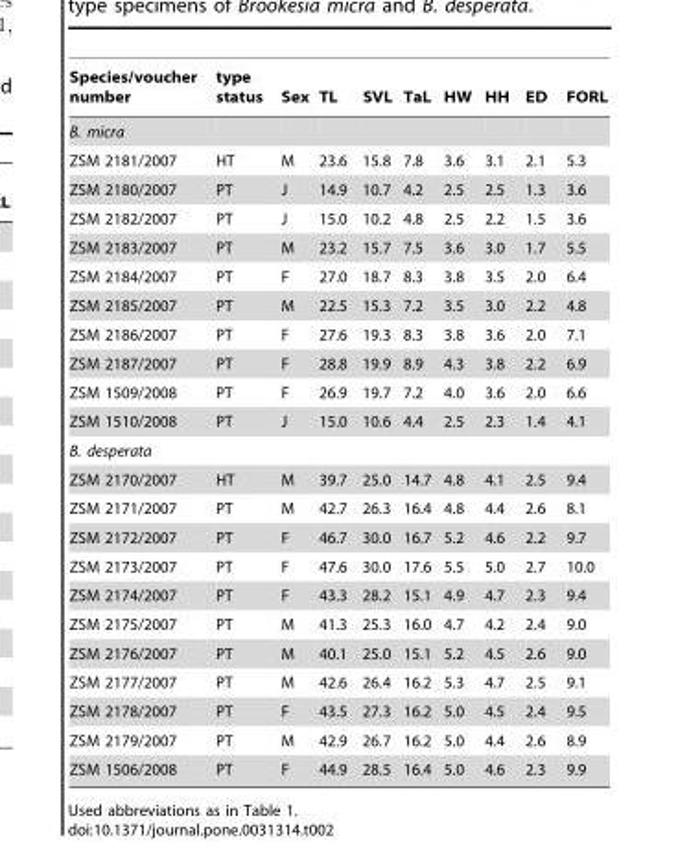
<table><thead><tr><td>Species/voucher number</td><td>type status</td><td>Sex</td><td>TL</td><td>SVL</td><td>TaL</td><td>HW</td><td>HH</td><td>ED</td><td>FORL</td></tr></thead><tbody><tr><td colspan="10">B. micra</td></tr><tr><td>ZSM 2181/2007</td><td>HT</td><td>M</td><td>23.6</td><td>15.8</td><td>7.8</td><td>3.6</td><td>3.1</td><td>2.1</td><td>5.3</td></tr><tr><td>ZSM 2180/2007</td><td>PT</td><td>J</td><td>14.9</td><td>10.7</td><td>4.2</td><td>2.5</td><td>2.5</td><td>1.3</td><td>3.6</td></tr><tr><td>ZSM 2182/2007</td><td>PT</td><td>J</td><td>15.0</td><td>10.2</td><td>4.8</td><td>2.5</td><td>2.2</td><td>1.5</td><td>3.6</td></tr><tr><td>ZSM 2183/2007</td><td>PT</td><td>M</td><td>23.2</td><td>15.7</td><td>7.5</td><td>3.6</td><td>3.0</td><td>1.7</td><td>5.5</td></tr><tr><td>ZSM 2184/2007</td><td>PT</td><td>F</td><td>27.0</td><td>18.7</td><td>8.3</td><td>3.8</td><td>3.5</td><td>2.0</td><td>6.4</td></tr><tr><td>ZSM 2185/2007</td><td>PT</td><td>M</td><td>22.5</td><td>15.3</td><td>7.2</td><td>3.5</td><td>3.0</td><td>2.2</td><td>4.8</td></tr><tr><td>ZSM 2186/2007</td><td>PT</td><td>F</td><td>27.6</td><td>19.3</td><td>8.3</td><td>3.8</td><td>3.6</td><td>2.0</td><td>7.1</td></tr><tr><td>ZSM 2187/2007</td><td>PT</td><td>F</td><td>28.8</td><td>19.9</td><td>8.9</td><td>4.3</td><td>3.8</td><td>2.2</td><td>6.9</td></tr><tr><td>ZSM 1509/2008</td><td>PT</td><td>F</td><td>26.9</td><td>19.7</td><td>7.2</td><td>4.0</td><td>3.6</td><td>2.0</td><td>6.6</td></tr><tr><td>ZSM 1510/2008</td><td>PT</td><td>J</td><td>15.0</td><td>10.6</td><td>4.4</td><td>2.5</td><td>2.3</td><td>1.4</td><td>4.1</td></tr><tr><td colspan="10">B. desperata</td></tr><tr><td>ZSM 2170/2007</td><td>HT</td><td>M</td><td>39.7</td><td>25.0</td><td>14.7</td><td>4.8</td><td>4.1</td><td>2.5</td><td>9.4</td></tr><tr><td>ZSM 2171/2007</td><td>PT</td><td>M</td><td>42.7</td><td>26.3</td><td>16.4</td><td>4.8</td><td>4.4</td><td>2.6</td><td>8.1</td></tr><tr><td>ZSM 2172/2007</td><td>PT</td><td>F</td><td>46.7</td><td>30.0</td><td>16.7</td><td>5.2</td><td>4.6</td><td>2.2</td><td>9.7</td></tr><tr><td>ZSM 2173/2007</td><td>PT</td><td>F</td><td>47.6</td><td>30.0</td><td>17.6</td><td>5.5</td><td>5.0</td><td>2.7</td><td>10.0</td></tr><tr><td>ZSM 2174/2007</td><td>PT</td><td>F</td><td>43.3</td><td>28.2</td><td>15.1</td><td>4.9</td><td>4.7</td><td>2.3</td><td>9.4</td></tr><tr><td>ZSM 2175/2007</td><td>PT</td><td>M</td><td>41.3</td><td>25.3</td><td>16.0</td><td>4.7</td><td>4.2</td><td>2.4</td><td>9.0</td></tr><tr><td>ZSM 2176/2007</td><td>PT</td><td>M</td><td>40.1</td><td>25.0</td><td>15.1</td><td>5.2</td><td>4.5</td><td>2.6</td><td>9.0</td></tr><tr><td>ZSM 2177/2007</td><td>PT</td><td>M</td><td>42.6</td><td>26.4</td><td>16.2</td><td>5.3</td><td>4.7</td><td>2.5</td><td>9.1</td></tr><tr><td>ZSM 2178/2007</td><td>PT</td><td>F</td><td>43.5</td><td>27.3</td><td>16.2</td><td>5.0</td><td>4.5</td><td>2.4</td><td>9.5</td></tr><tr><td>ZSM 2179/2007</td><td>PT</td><td>M</td><td>42.9</td><td>26.7</td><td>16.2</td><td>5.0</td><td>4.4</td><td>2.6</td><td>8.9</td></tr><tr><td>ZSM 1506/2008</td><td>PT</td><td>F</td><td>44.9</td><td>28.5</td><td>16.4</td><td>5.0</td><td>4.6</td><td>2.3</td><td>9.9</td></tr></tbody></table>